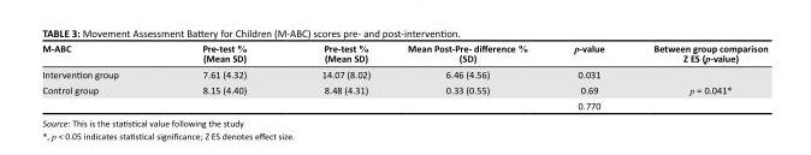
<table><thead><tr><td>M-ABC</td><td>Pre-test % (Mean SD)</td><td>Pre-test % (Mean SD)</td><td>Mean Post-Pre- difference % (SD)</td><td>p-value</td><td>Between group comparison Z ES (p-value)</td></tr></thead><tbody><tr><td>Intervention group</td><td>7.61 (4.32)</td><td>14.07 (8.02)</td><td>6.46 (4.56)</td><td>0.031</td><td></td></tr><tr><td rowspan="2">Control group</td><td>8.15 (4.40)</td><td>8.48 (4.31)</td><td>0.33 (0.55)</td><td>0.69</td><td>p = 0.041*</td></tr><tr><td></td><td></td><td></td><td>0.770</td><td></td></tr></tbody></table>